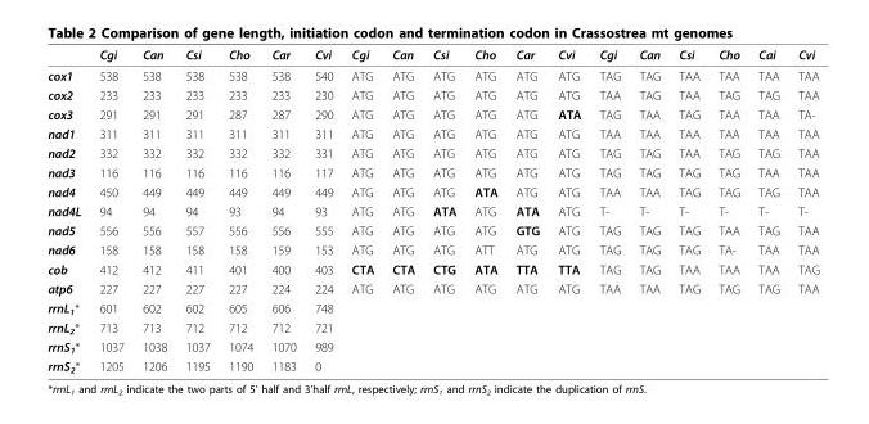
<table><thead><tr><td></td><td>Cgi</td><td>Can</td><td>Csi</td><td>Cho</td><td>Car</td><td>Cvi</td><td>Cgi</td><td>Can</td><td>Csi</td><td>Cho</td><td>Car</td><td>Cvi</td><td>Cgi</td><td>Can</td><td>Csi</td><td>Cho</td><td>Cai</td><td>Cvi</td></tr></thead><tbody><tr><td>cox1</td><td>538</td><td>538</td><td>538</td><td>538</td><td>538</td><td>540</td><td>ATG</td><td>ATG</td><td>ATG</td><td>ATG</td><td>ATG</td><td>ATG</td><td>TAG</td><td>TAG</td><td>TAA</td><td>TAA</td><td>TAA</td><td>TAA</td></tr><tr><td>cox2</td><td>233</td><td>233</td><td>233</td><td>233</td><td>233</td><td>230</td><td>ATG</td><td>ATG</td><td>ATG</td><td>ATG</td><td>ATG</td><td>ATG</td><td>TAA</td><td>TAG</td><td>TAA</td><td>TAG</td><td>TAG</td><td>TAA</td></tr><tr><td>cox3</td><td>291</td><td>291</td><td>291</td><td>287</td><td>287</td><td>290</td><td>ATG</td><td>ATG</td><td>ATG</td><td>ATG</td><td>ATG</td><td>ATA</td><td>TAG</td><td>TAA</td><td>TAG</td><td>TAA</td><td>TAA</td><td>TA-</td></tr><tr><td>nad1</td><td>311</td><td>311</td><td>311</td><td>311</td><td>311</td><td>311</td><td>ATG</td><td>ATG</td><td>ATG</td><td>ATG</td><td>ATG</td><td>ATG</td><td>TAA</td><td>TAA</td><td>TAA</td><td>TAA</td><td>TAA</td><td>TAA</td></tr><tr><td>nad2</td><td>332</td><td>332</td><td>332</td><td>332</td><td>332</td><td>331</td><td>ATG</td><td>ATG</td><td>ATG</td><td>ATG</td><td>ATG</td><td>ATG</td><td>TAG</td><td>TAG</td><td>TAA</td><td>TAG</td><td>TAG</td><td>TAA</td></tr><tr><td>nad3</td><td>116</td><td>116</td><td>116</td><td>116</td><td>116</td><td>117</td><td>ATG</td><td>ATG</td><td>ATG</td><td>ATG</td><td>ATG</td><td>ATG</td><td>TAG</td><td>TAG</td><td>TAG</td><td>TAG</td><td>TAA</td><td>TAA</td></tr><tr><td>nad4</td><td>450</td><td>449</td><td>449</td><td>449</td><td>449</td><td>449</td><td>ATG</td><td>ATG</td><td>ATG</td><td>ATA</td><td>ATG</td><td>ATG</td><td>TAA</td><td>TAA</td><td>TAG</td><td>TAG</td><td>TAG</td><td>TAA</td></tr><tr><td>nad4L</td><td>94</td><td>94</td><td>94</td><td>93</td><td>94</td><td>93</td><td>ATG</td><td>ATG</td><td>ATA</td><td>ATG</td><td>ATA</td><td>ATG</td><td>T-</td><td>T-</td><td>T-</td><td>T-</td><td>T-</td><td>T-</td></tr><tr><td>nad5</td><td>556</td><td>556</td><td>557</td><td>556</td><td>556</td><td>555</td><td>ATG</td><td>ATG</td><td>ATG</td><td>ATG</td><td>GTG</td><td>ATG</td><td>TAG</td><td>TAG</td><td>TAG</td><td>TAA</td><td>TAG</td><td>TAA</td></tr><tr><td>nad6</td><td>158</td><td>158</td><td>158</td><td>158</td><td>159</td><td>153</td><td>ATG</td><td>ATG</td><td>ATG</td><td>ATT</td><td>ATG</td><td>ATG</td><td>TAG</td><td>TAG</td><td>TAG</td><td>TA-</td><td>TAA</td><td>TAA</td></tr><tr><td>cob</td><td>412</td><td>412</td><td>411</td><td>401</td><td>400</td><td>403</td><td>CTA</td><td>CTA</td><td>CTG</td><td>ATA</td><td>TTA</td><td>TTA</td><td>TAG</td><td>TAG</td><td>TAA</td><td>TAA</td><td>TAA</td><td>TAG</td></tr><tr><td>atp6</td><td>227</td><td>227</td><td>227</td><td>227</td><td>224</td><td>224</td><td>ATG</td><td>ATG</td><td>ATG</td><td>ATG</td><td>ATG</td><td>ATG</td><td>TAA</td><td>TAA</td><td>TAG</td><td>TAG</td><td>TAG</td><td>TAA</td></tr><tr><td>rrnL<sub>1</sub>*</td><td>601</td><td>602</td><td>602</td><td>605</td><td>606</td><td>748</td><td></td><td></td><td></td><td></td><td></td><td></td><td></td><td></td><td></td><td></td><td></td><td></td></tr><tr><td>rrnL<sub>2</sub>*</td><td>713</td><td>713</td><td>712</td><td>712</td><td>712</td><td>721</td><td></td><td></td><td></td><td></td><td></td><td></td><td></td><td></td><td></td><td></td><td></td><td></td></tr><tr><td>rrnS<sub>1</sub>*</td><td>1037</td><td>1038</td><td>1037</td><td>1074</td><td>1070</td><td>989</td><td></td><td></td><td></td><td></td><td></td><td></td><td></td><td></td><td></td><td></td><td></td><td></td></tr><tr><td>rrnS<sub>2</sub>*</td><td>1205</td><td>1206</td><td>1195</td><td>1190</td><td>1183</td><td>0</td><td></td><td></td><td></td><td></td><td></td><td></td><td></td><td></td><td></td><td></td><td></td><td></td></tr></tbody></table>